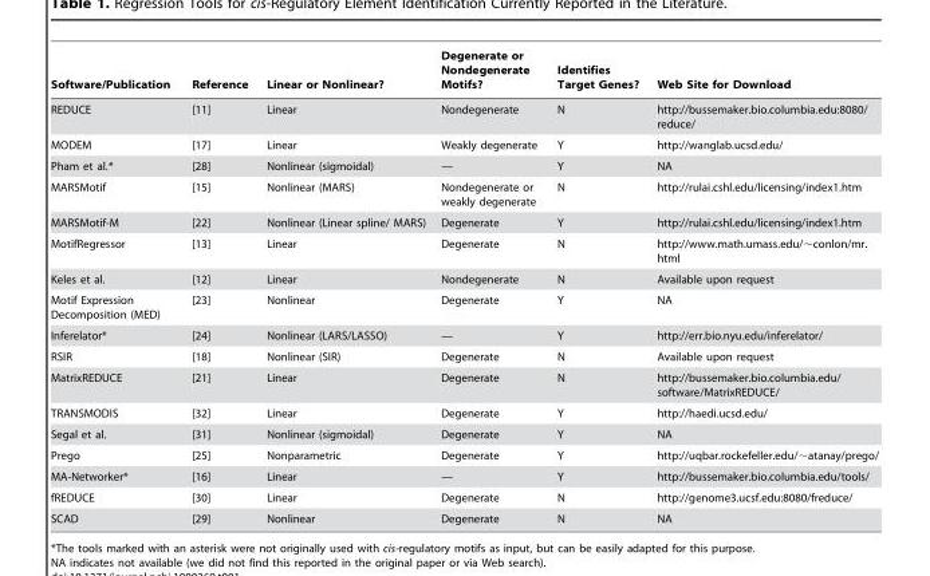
<table><thead><tr><td>Software/Publication</td><td>Reference</td><td>Linear or Nonlinear?</td><td>Degenerate or Nondegenerate Motifs?</td><td>Identifies Target Genes?</td><td>Web Site for Download</td></tr></thead><tbody><tr><td>REDUCE</td><td>[11]</td><td>Linear</td><td>Nondegenerate</td><td>N</td><td>http://bussemaker.bio.columbia.edu:8080/ reduce/</td></tr><tr><td>MODEM</td><td>[17]</td><td>Linear</td><td>Weakly degenerate</td><td>Y</td><td>http://wanglab.ucsd.edu/</td></tr><tr><td>Pham et al.*</td><td>[28]</td><td>Nonlinear (sigmoidal)</td><td>—</td><td>Y</td><td>NA</td></tr><tr><td>MARSMotif</td><td>[15]</td><td>Nonlinear (MARS)</td><td>Nondegenerate or weakly degenerate</td><td>N</td><td>http://rulai.cshl.edu/licensing/index1.htm</td></tr><tr><td>MARSMotif-M</td><td>[22]</td><td>Nonlinear (Linear spline/ MARS)</td><td>Degenerate</td><td>Y</td><td>http://rulai.cshl.edu/licensing/index1.htm</td></tr><tr><td>MotifRegressor</td><td>[13]</td><td>Linear</td><td>Degenerate</td><td>N</td><td>http://www.math.umass.edu/˜conlon/mr. html</td></tr><tr><td>Keles et al.</td><td>[12]</td><td>Linear</td><td>Nondegenerate</td><td>N</td><td>Available upon request</td></tr><tr><td>Motif Expression Decomposition (MED)</td><td>[23]</td><td>Nonlinear</td><td>Degenerate</td><td>Y</td><td>NA</td></tr><tr><td>Inferelator*</td><td>[24]</td><td>Nonlinear (LARS/LASSO)</td><td>—</td><td>Y</td><td>http://err.bio.nyu.edu/inferelator/</td></tr><tr><td>RSIR</td><td>[18]</td><td>Nonlinear (SIR)</td><td>Degenerate</td><td>N</td><td>Available upon request</td></tr><tr><td>MatrixREDUCE</td><td>[21]</td><td>Linear</td><td>Degenerate</td><td>N</td><td>http://bussemaker.bio.columbia.edu/ software/MatrixREDUCE/</td></tr><tr><td>TRANSMODIS</td><td>[32]</td><td>Linear</td><td>Degenerate</td><td>Y</td><td>http://haedi.ucsd.edu/</td></tr><tr><td>Segal et al.</td><td>[31]</td><td>Nonlinear (sigmoidal)</td><td>Degenerate</td><td>Y</td><td>NA</td></tr><tr><td>Prego</td><td>[25]</td><td>Nonparametric</td><td>Degenerate</td><td>Y</td><td>http://uqbar.rockefeller.edu/˜atanay/prego/</td></tr><tr><td>MA-Networker*</td><td>[16]</td><td>Linear</td><td>—</td><td>Y</td><td>http://bussemaker.bio.columbia.edu/tools/</td></tr><tr><td>fREDUCE</td><td>[30]</td><td>Linear</td><td>Degenerate</td><td>N</td><td>http://genome3.ucsf.edu:8080/freduce/</td></tr><tr><td>SCAD</td><td>[29]</td><td>Nonlinear</td><td>Degenerate</td><td>N</td><td>NA</td></tr></tbody></table>